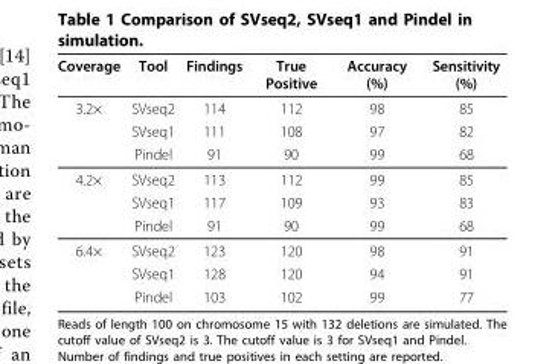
<table><thead><tr><td>Coverage</td><td>Tool</td><td>Findings</td><td>True Positive</td><td>Accuracy (%)</td><td>Sensitivity (%)</td></tr></thead><tbody><tr><td rowspan="3">3.2×</td><td>SVseq2</td><td>114</td><td>112</td><td>98</td><td>85</td></tr><tr><td>SVseq1</td><td>111</td><td>108</td><td>97</td><td>82</td></tr><tr><td>Pindel</td><td>91</td><td>90</td><td>99</td><td>68</td></tr><tr><td rowspan="3">4.2×</td><td>SVseq2</td><td>113</td><td>112</td><td>99</td><td>85</td></tr><tr><td>SVseq1</td><td>117</td><td>109</td><td>93</td><td>83</td></tr><tr><td>Pindel</td><td>91</td><td>90</td><td>99</td><td>68</td></tr><tr><td rowspan="3">6.4×</td><td>SVseq2</td><td>123</td><td>120</td><td>98</td><td>91</td></tr><tr><td>SVseq1</td><td>128</td><td>120</td><td>94</td><td>91</td></tr><tr><td>Pindel</td><td>103</td><td>102</td><td>99</td><td>77</td></tr></tbody></table>